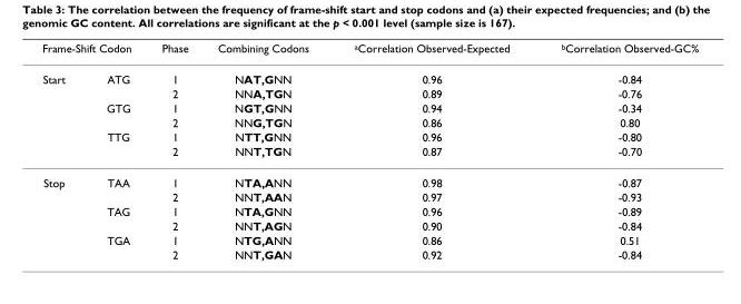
<table><thead><tr><td colspan="2">Frame-Shift Codon</td><td rowspan="2">Phase 1</td><td rowspan="2">Combining Codons NAT,GNN</td><td rowspan="2"><sup>a</sup>Correlation Observed-Expected 0.96</td><td rowspan="2"><sup>b</sup>Correlation Observed-GC% -0.84</td></tr><tr><td>Start</td><td>ATG</td></tr></thead><tbody><tr><td></td><td></td><td>2</td><td>NNA,TGN</td><td>0.89</td><td>-0.76</td></tr><tr><td></td><td>GTG</td><td>1</td><td>NGT,GNN</td><td>0.94</td><td>-0.34</td></tr><tr><td></td><td></td><td>2</td><td>NNG,TGN</td><td>0.86</td><td>0.80</td></tr><tr><td></td><td>TTG</td><td>1</td><td>NTT,GNN</td><td>0.96</td><td>-0.80</td></tr><tr><td></td><td></td><td>2</td><td>NNT,TGN</td><td>0.87</td><td>-0.70</td></tr><tr><td rowspan="6">Stop</td><td>TAA</td><td>1</td><td>NTA,ANN</td><td>0.98</td><td>-0.87</td></tr><tr><td></td><td>2</td><td>NNT,AAN</td><td>0.97</td><td>-0.93</td></tr><tr><td>TAG</td><td>1</td><td>NTA,GNN</td><td>0.96</td><td>-0.89</td></tr><tr><td></td><td>2</td><td>NNT,AGN</td><td>0.90</td><td>-0.84</td></tr><tr><td>TGA</td><td>1</td><td>NTG,ANN</td><td>0.86</td><td>0.51</td></tr><tr><td></td><td>2</td><td>NNT,GAN</td><td>0.92</td><td>-0.84</td></tr></tbody></table>